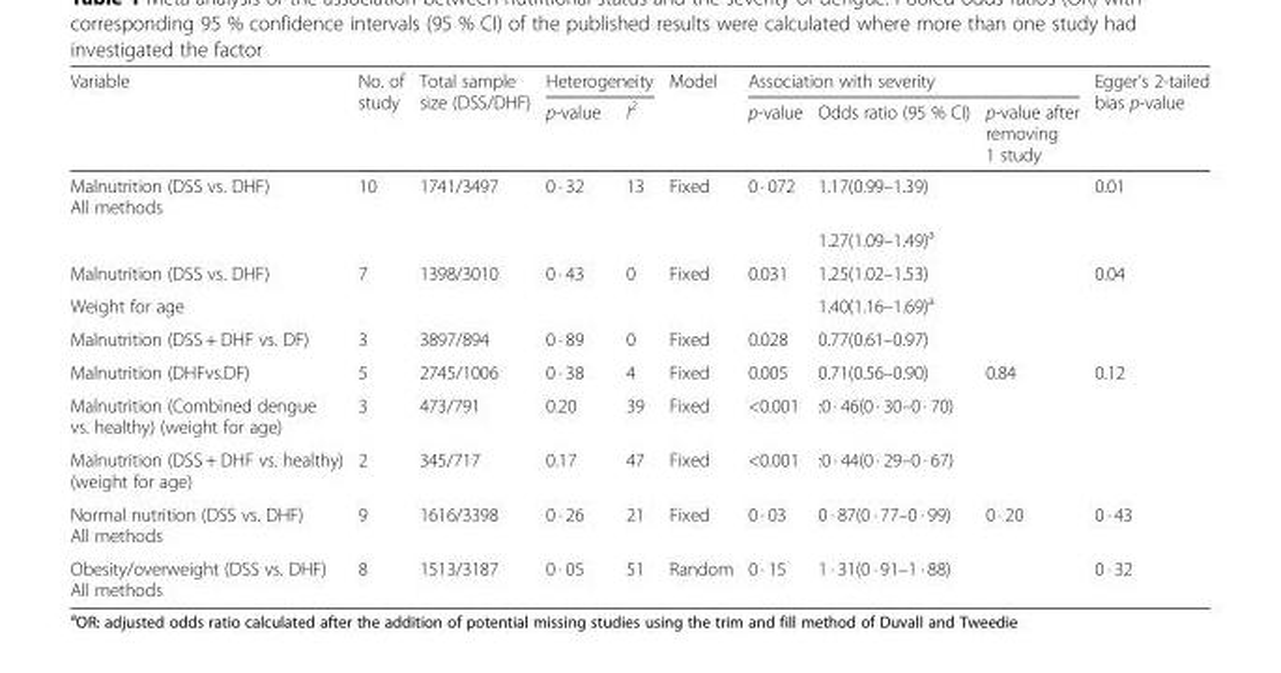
<table><thead><tr><td rowspan="2">Variable</td><td rowspan="2">No. of study</td><td rowspan="2">Total sample size (DSS/DHF)</td><td colspan="2">Heterogeneity</td><td rowspan="2">Model</td><td colspan="3">Association with severity</td><td rowspan="2">Egger’s 2-tailed bias p-value</td></tr><tr><td>p-value</td><td>I<sup>2</sup></td><td>p-value</td><td>Odds ratio (95 % CI)</td><td>p-value after removing 1 study</td></tr></thead><tbody><tr><td rowspan="2">Malnutrition (DSS vs. DHF) All methods</td><td>10</td><td>1741/3497</td><td>0 · 32</td><td>13</td><td>Fixed</td><td>0 · 072</td><td>1.17(0.99–1.39)</td><td rowspan="2"></td><td rowspan="2">0.01</td></tr><tr><td></td><td></td><td></td><td></td><td></td><td></td><td>1.27(1.09–1.49)<sup>a</sup></td></tr><tr><td>Malnutrition (DSS vs. DHF)</td><td rowspan="2">7</td><td rowspan="2">1398/3010</td><td rowspan="2">0 · 43</td><td rowspan="2">0</td><td rowspan="2">Fixed</td><td rowspan="2">0.031</td><td>1.25(1.02–1.53)</td><td rowspan="2"></td><td rowspan="2">0.04</td></tr><tr><td>Weight for age</td><td>1.40(1.16–1.69)<sup>a</sup></td></tr><tr><td>Malnutrition (DSS + DHF vs. DF)</td><td>3</td><td>3897/894</td><td>0 · 89</td><td>0</td><td>Fixed</td><td>0.028</td><td>0.77(0.61–0.97)</td><td></td><td></td></tr><tr><td>Malnutrition (DHFvs.DF)</td><td>5</td><td>2745/1006</td><td>0 · 38</td><td>4</td><td>Fixed</td><td>0.005</td><td>0.71(0.56–0.90)</td><td>0.84</td><td>0.12</td></tr><tr><td>Malnutrition (Combined dengue vs. healthy) (weight for age)</td><td>3</td><td>473/791</td><td>0.20</td><td>39</td><td>Fixed</td><td>&lt;0.001</td><td>:0 · 46(0 · 30–0 · 70)</td><td></td><td></td></tr><tr><td>Malnutrition (DSS + DHF vs. healthy) (weight for age)</td><td>2</td><td>345/717</td><td>0.17</td><td>47</td><td>Fixed</td><td>&lt;0.001</td><td>:0 · 44(0 · 29–0 · 67)</td><td></td><td></td></tr><tr><td>Normal nutrition (DSS vs. DHF) All methods</td><td>9</td><td>1616/3398</td><td>0 · 26</td><td>21</td><td>Fixed</td><td>0 · 03</td><td>0 · 87(0 · 77–0 · 99)</td><td>0 · 20</td><td>0 · 43</td></tr><tr><td>Obesity/overweight (DSS vs. DHF) All methods</td><td>8</td><td>1513/3187</td><td>0 · 05</td><td>51</td><td>Random</td><td>0 · 15</td><td>1 · 31(0 · 91–1 · 88)</td><td></td><td>0 · 32</td></tr></tbody></table>